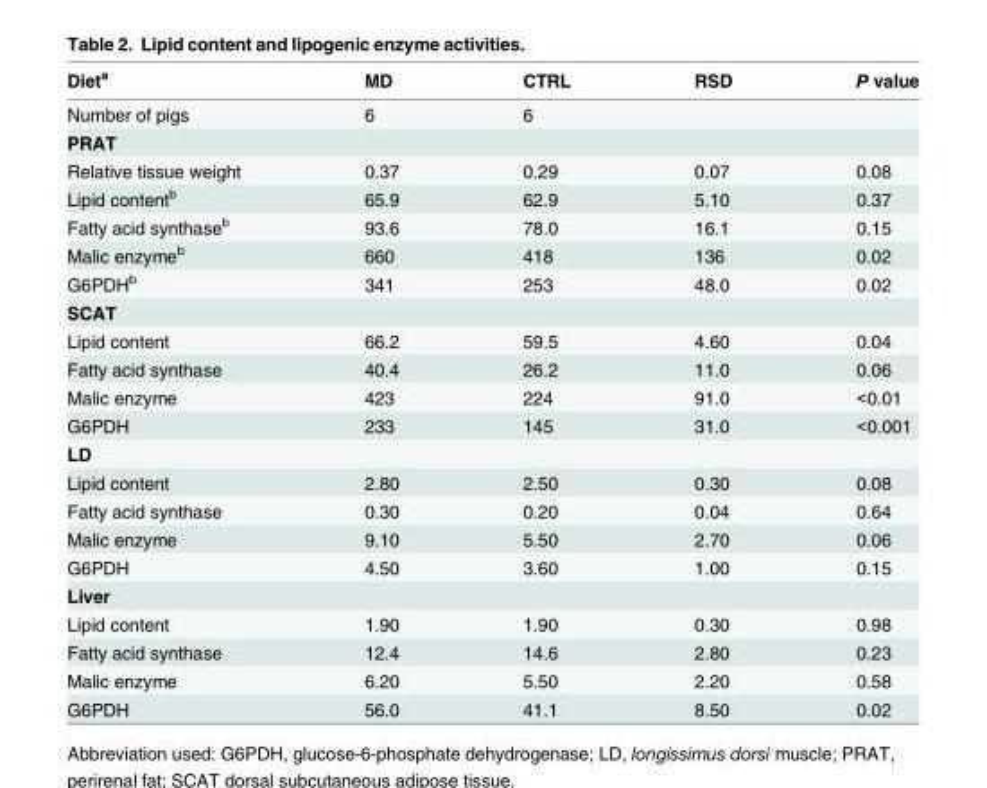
<table><thead><tr><td>Diet<sup>a</sup></td><td>MD</td><td>CTRL</td><td>RSD</td><td>P value</td></tr></thead><tbody><tr><td>Number of pigs</td><td>6</td><td>6</td><td></td><td></td></tr><tr><td colspan="5">PRAT</td></tr><tr><td>Relative tissue weight</td><td>0.37</td><td>0.29</td><td>0.07</td><td>0.08</td></tr><tr><td>Lipid content<sup>b</sup></td><td>65.9</td><td>62.9</td><td>5.10</td><td>0.37</td></tr><tr><td>Fatty acid synthase<sup>b</sup></td><td>93.6</td><td>78.0</td><td>16.1</td><td>0.15</td></tr><tr><td>Malic enzyme<sup>b</sup></td><td>660</td><td>418</td><td>136</td><td>0.02</td></tr><tr><td>G6PDH<sup>b</sup></td><td>341</td><td>253</td><td>48.0</td><td>0.02</td></tr><tr><td colspan="5">SCAT</td></tr><tr><td>Lipid content</td><td>66.2</td><td>59.5</td><td>4.60</td><td>0.04</td></tr><tr><td>Fatty acid synthase</td><td>40.4</td><td>26.2</td><td>11.0</td><td>0.06</td></tr><tr><td>Malic enzyme</td><td>423</td><td>224</td><td>91.0</td><td>&lt;0.01</td></tr><tr><td>G6PDH</td><td>233</td><td>145</td><td>31.0</td><td>&lt;0.001</td></tr><tr><td colspan="5">LD</td></tr><tr><td>Lipid content</td><td>2.80</td><td>2.50</td><td>0.30</td><td>0.08</td></tr><tr><td>Fatty acid synthase</td><td>0.30</td><td>0.20</td><td>0.04</td><td>0.64</td></tr><tr><td>Malic enzyme</td><td>9.10</td><td>5.50</td><td>2.70</td><td>0.06</td></tr><tr><td>G6PDH</td><td>4.50</td><td>3.60</td><td>1.00</td><td>0.15</td></tr><tr><td colspan="5">Liver</td></tr><tr><td>Lipid content</td><td>1.90</td><td>1.90</td><td>0.30</td><td>0.98</td></tr><tr><td>Fatty acid synthase</td><td>12.4</td><td>14.6</td><td>2.80</td><td>0.23</td></tr><tr><td>Malic enzyme</td><td>6.20</td><td>5.50</td><td>2.20</td><td>0.58</td></tr><tr><td>G6PDH</td><td>56.0</td><td>41.1</td><td>8.50</td><td>0.02</td></tr></tbody></table>